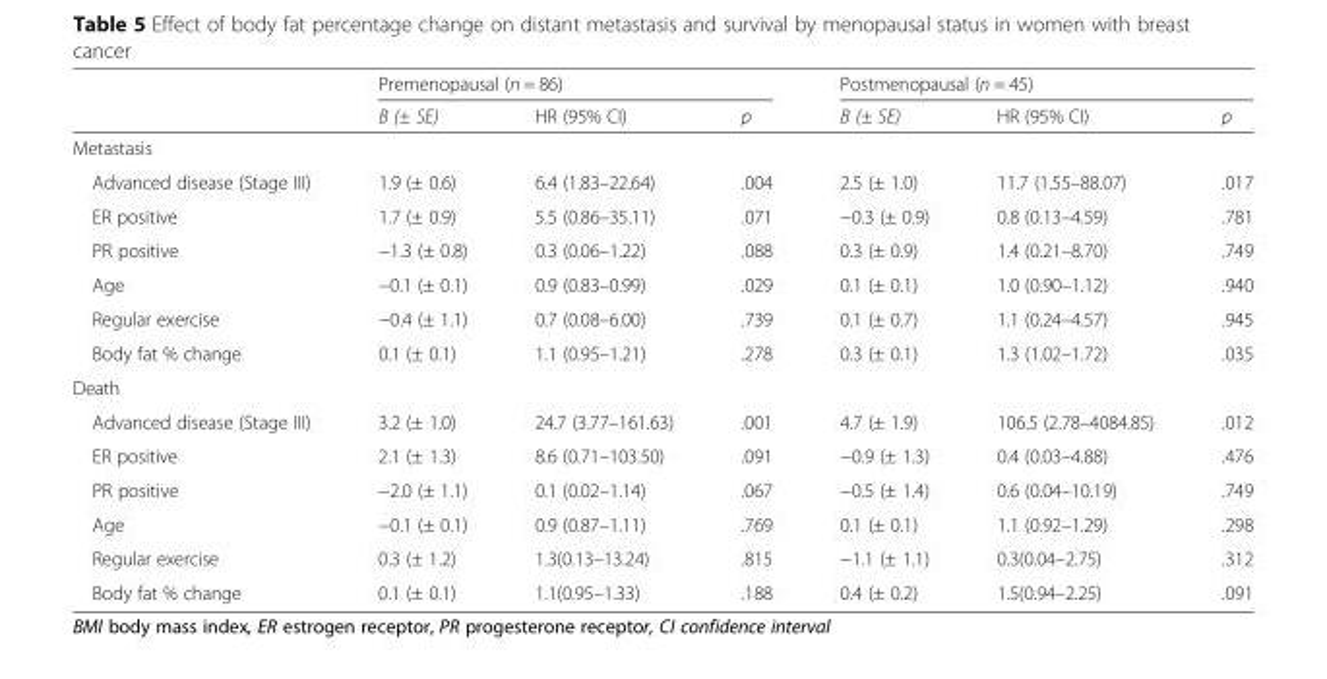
<table><thead><tr><td rowspan="2"></td><td colspan="3">Premenopausal (n = 86)</td><td colspan="3">Postmenopausal (n = 45)</td></tr><tr><td>B (± SE)</td><td>HR (95% CI)</td><td>p</td><td>B (± SE)</td><td>HR (95% CI)</td><td>p</td></tr></thead><tbody><tr><td colspan="7">Metastasis</td></tr><tr><td>Advanced disease (Stage III)</td><td>1.9 (± 0.6)</td><td>6.4 (1.83–22.64)</td><td>.004</td><td>2.5 (± 1.0)</td><td>11.7 (1.55–88.07)</td><td>.017</td></tr><tr><td>ER positive</td><td>1.7 (± 0.9)</td><td>5.5 (0.86–35.11)</td><td>.071</td><td>−0.3 (± 0.9)</td><td>0.8 (0.13–4.59)</td><td>.781</td></tr><tr><td>PR positive</td><td>−1.3 (± 0.8)</td><td>0.3 (0.06–1.22)</td><td>.088</td><td>0.3 (± 0.9)</td><td>1.4 (0.21–8.70)</td><td>.749</td></tr><tr><td>Age</td><td>−0.1 (± 0.1)</td><td>0.9 (0.83–0.99)</td><td>.029</td><td>0.1 (± 0.1)</td><td>1.0 (0.90–1.12)</td><td>.940</td></tr><tr><td>Regular exercise</td><td>−0.4 (± 1.1)</td><td>0.7 (0.08–6.00)</td><td>.739</td><td>0.1 (± 0.7)</td><td>1.1 (0.24–4.57)</td><td>.945</td></tr><tr><td>Body fat % change</td><td>0.1 (± 0.1)</td><td>1.1 (0.95–1.21)</td><td>.278</td><td>0.3 (± 0.1)</td><td>1.3 (1.02–1.72)</td><td>.035</td></tr><tr><td colspan="7">Death</td></tr><tr><td>Advanced disease (Stage III)</td><td>3.2 (± 1.0)</td><td>24.7 (3.77–161.63)</td><td>.001</td><td>4.7 (± 1.9)</td><td>106.5 (2.78–4084.85)</td><td>.012</td></tr><tr><td>ER positive</td><td>2.1 (± 1.3)</td><td>8.6 (0.71–103.50)</td><td>.091</td><td>−0.9 (± 1.3)</td><td>0.4 (0.03–4.88)</td><td>.476</td></tr><tr><td>PR positive</td><td>−2.0 (± 1.1)</td><td>0.1 (0.02–1.14)</td><td>.067</td><td>−0.5 (± 1.4)</td><td>0.6 (0.04–10.19)</td><td>.749</td></tr><tr><td>Age</td><td>−0.1 (± 0.1)</td><td>0.9 (0.87–1.11)</td><td>.769</td><td>0.1 (± 0.1)</td><td>1.1 (0.92–1.29)</td><td>.298</td></tr><tr><td>Regular exercise</td><td>0.3 (± 1.2)</td><td>1.3(0.13–13.24)</td><td>.815</td><td>−1.1 (± 1.1)</td><td>0.3(0.04–2.75)</td><td>.312</td></tr><tr><td>Body fat % change</td><td>0.1 (± 0.1)</td><td>1.1(0.95–1.33)</td><td>.188</td><td>0.4 (± 0.2)</td><td>1.5(0.94–2.25)</td><td>.091</td></tr></tbody></table>